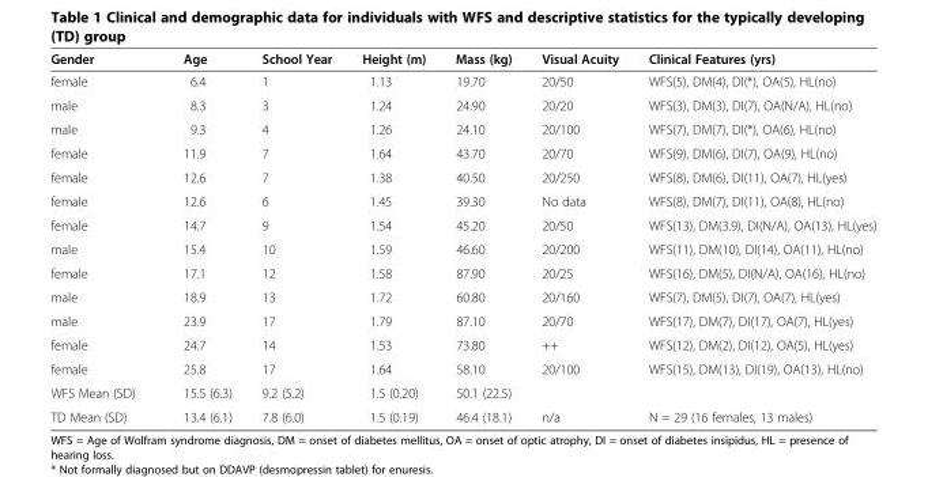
<table><thead><tr><td>Gender</td><td>Age</td><td>School Year</td><td>Height (m)</td><td>Mass (kg)</td><td>Visual Acuity</td><td>Clinical Features (yrs)</td></tr></thead><tbody><tr><td>female</td><td>6.4</td><td>1</td><td>1.13</td><td>19.70</td><td>20/50</td><td>WFS(5), DM(4), DI(*), OA(5), HL(no)</td></tr><tr><td>male</td><td>8.3</td><td>3</td><td>1.24</td><td>24.90</td><td>20/20</td><td>WFS(3), DM(3), DI(7), OA(N/A), HL(no)</td></tr><tr><td>male</td><td>9.3</td><td>4</td><td>1.26</td><td>24.10</td><td>20/100</td><td>WFS(7), DM(7), DI(*), OA(6), HL(no)</td></tr><tr><td>female</td><td>11.9</td><td>7</td><td>1.64</td><td>43.70</td><td>20/70</td><td>WFS(9), DM(6), DI(7), OA(9), HL(no)</td></tr><tr><td>female</td><td>12.6</td><td>7</td><td>1.38</td><td>40.50</td><td>20/250</td><td>WFS(8), DM(6), DI(11), OA(7), HL(yes)</td></tr><tr><td>female</td><td>12.6</td><td>6</td><td>1.45</td><td>39.30</td><td>No data</td><td>WFS(8), DM(7), DI(11), OA(8), HL(no)</td></tr><tr><td>female</td><td>14.7</td><td>9</td><td>1.54</td><td>45.20</td><td>20/50</td><td>WFS(13), DM(3.9), DI(N/A), OA(13), HL(yes)</td></tr><tr><td>male</td><td>15.4</td><td>10</td><td>1.59</td><td>46.60</td><td>20/200</td><td>WFS(11), DM(10), DI(14), OA(11), HL(no)</td></tr><tr><td>female</td><td>17.1</td><td>12</td><td>1.58</td><td>87.90</td><td>20/25</td><td>WFS(16), DM(5), DI(N/A), OA(16), HL(no)</td></tr><tr><td>male</td><td>18.9</td><td>13</td><td>1.72</td><td>60.80</td><td>20/160</td><td>WFS(7), DM(5), DI(7), OA(7), HL(yes)</td></tr><tr><td>male</td><td>23.9</td><td>17</td><td>1.79</td><td>87.10</td><td>20/70</td><td>WFS(17), DM(7), DI(17), OA(7), HL(yes)</td></tr><tr><td>female</td><td>24.7</td><td>14</td><td>1.53</td><td>73.80</td><td>++</td><td>WFS(12), DM(2), DI(12), OA(5), HL(yes)</td></tr><tr><td>female</td><td>25.8</td><td>17</td><td>1.64</td><td>58.10</td><td>20/100</td><td>WFS(15), DM(13), DI(19), OA(13), HL(no)</td></tr><tr><td>WFS Mean (SD)</td><td>15.5 (6.3)</td><td>9.2 (5.2)</td><td>1.5 (0.20)</td><td>50.1 (22.5)</td><td></td><td></td></tr><tr><td>TD Mean (SD)</td><td>13.4 (6.1)</td><td>7.8 (6.0)</td><td>1.5 (0.19)</td><td>46.4 (18.1)</td><td>n/a</td><td>N = 29 (16 females, 13 males)</td></tr></tbody></table>